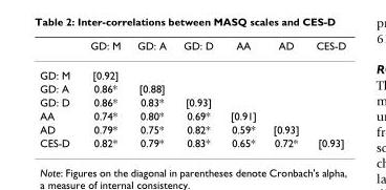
<table><thead><tr><td></td><td>GD: M</td><td>GD: A</td><td>GD: D</td><td>AA</td><td>AD</td><td>CES-D</td></tr></thead><tbody><tr><td>GD: M</td><td>[0.92]</td><td></td><td></td><td></td><td></td><td></td></tr><tr><td>GD: A</td><td>0.86*</td><td>[0.88]</td><td></td><td></td><td></td><td></td></tr><tr><td>GD: D</td><td>0.86*</td><td>0.83*</td><td>[0.93]</td><td></td><td></td><td></td></tr><tr><td>AA</td><td>0.74*</td><td>0.80*</td><td>0.69*</td><td>[0.91]</td><td></td><td></td></tr><tr><td>AD</td><td>0.79*</td><td>0.75*</td><td>0.82*</td><td>0.59*</td><td>[0.93]</td><td></td></tr><tr><td>CES-D</td><td>0.82*</td><td>0.79*</td><td>0.83*</td><td>0.65*</td><td>0.72*</td><td>[0.93]</td></tr></tbody></table>